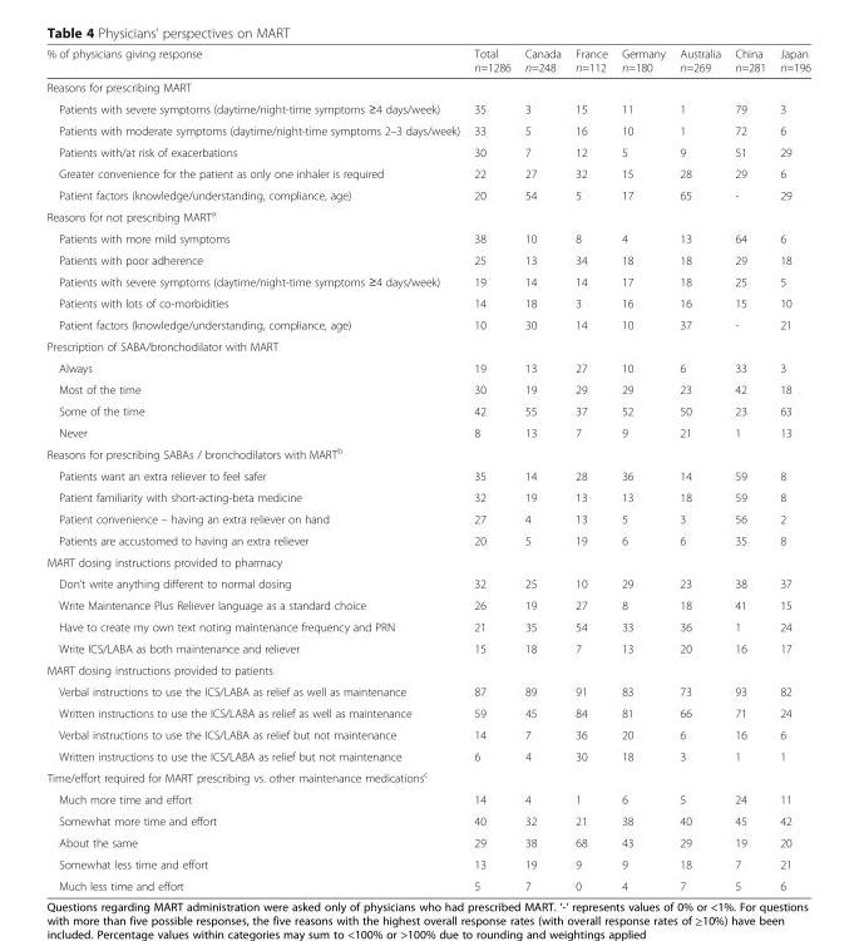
<table><thead><tr><td>% of physicians giving response</td><td>Total n=1286</td><td>Canada n=248</td><td>France n=112</td><td>Germany n=180</td><td>Australia n=269</td><td>China n=281</td><td>Japan n=196</td></tr></thead><tbody><tr><td colspan="8">Reasons for prescribing MART</td></tr><tr><td>Patients with severe symptoms (daytime/night-time symptoms ≥4 days/week)</td><td>35</td><td>3</td><td>15</td><td>11</td><td>1</td><td>79</td><td>3</td></tr><tr><td>Patients with moderate symptoms (daytime/night-time symptoms 2–3 days/week)</td><td>33</td><td>5</td><td>16</td><td>10</td><td>1</td><td>72</td><td>6</td></tr><tr><td>Patients with/at risk of exacerbations</td><td>30</td><td>7</td><td>12</td><td>5</td><td>9</td><td>51</td><td>29</td></tr><tr><td>Greater convenience for the patient as only one inhaler is required</td><td>22</td><td>27</td><td>32</td><td>15</td><td>28</td><td>29</td><td>6</td></tr><tr><td>Patient factors (knowledge/understanding, compliance, age)</td><td>20</td><td>54</td><td>5</td><td>17</td><td>65</td><td>-</td><td>29</td></tr><tr><td colspan="8">Reasons for not prescribing MART<sup>a</sup></td></tr><tr><td>Patients with more mild symptoms</td><td>38</td><td>10</td><td>8</td><td>4</td><td>13</td><td>64</td><td>6</td></tr><tr><td>Patients with poor adherence</td><td>25</td><td>13</td><td>34</td><td>18</td><td>18</td><td>29</td><td>18</td></tr><tr><td>Patients with severe symptoms (daytime/night-time symptoms ≥4 days/week)</td><td>19</td><td>14</td><td>14</td><td>17</td><td>18</td><td>25</td><td>5</td></tr><tr><td>Patients with lots of co-morbidities</td><td>14</td><td>18</td><td>3</td><td>16</td><td>16</td><td>15</td><td>10</td></tr><tr><td>Patient factors (knowledge/understanding, compliance, age)</td><td>10</td><td>30</td><td>14</td><td>10</td><td>37</td><td>-</td><td>21</td></tr><tr><td colspan="8">Prescription of SABA/bronchodilator with MART</td></tr><tr><td>Always</td><td>19</td><td>13</td><td>27</td><td>10</td><td>6</td><td>33</td><td>3</td></tr><tr><td>Most of the time</td><td>30</td><td>19</td><td>29</td><td>29</td><td>23</td><td>42</td><td>18</td></tr><tr><td>Some of the time</td><td>42</td><td>55</td><td>37</td><td>52</td><td>50</td><td>23</td><td>63</td></tr><tr><td>Never</td><td>8</td><td>13</td><td>7</td><td>9</td><td>21</td><td>1</td><td>13</td></tr><tr><td colspan="8">Reasons for prescribing SABAs / bronchodilators with MART<sup>b</sup></td></tr><tr><td>Patients want an extra reliever to feel safer</td><td>35</td><td>14</td><td>28</td><td>36</td><td>14</td><td>59</td><td>8</td></tr><tr><td>Patient familiarity with short-acting-beta medicine</td><td>32</td><td>19</td><td>13</td><td>13</td><td>18</td><td>59</td><td>8</td></tr><tr><td>Patient convenience – having an extra reliever on hand</td><td>27</td><td>4</td><td>13</td><td>5</td><td>3</td><td>56</td><td>2</td></tr><tr><td>Patients are accustomed to having an extra reliever</td><td>20</td><td>5</td><td>19</td><td>6</td><td>6</td><td>35</td><td>8</td></tr><tr><td colspan="8">MART dosing instructions provided to pharmacy</td></tr><tr><td>Don’t write anything different to normal dosing</td><td>32</td><td>25</td><td>10</td><td>29</td><td>23</td><td>38</td><td>37</td></tr><tr><td>Write Maintenance Plus Reliever language as a standard choice</td><td>26</td><td>19</td><td>27</td><td>8</td><td>18</td><td>41</td><td>15</td></tr><tr><td>Have to create my own text noting maintenance frequency and PRN</td><td>21</td><td>35</td><td>54</td><td>33</td><td>36</td><td>1</td><td>24</td></tr><tr><td>Write ICS/LABA as both maintenance and reliever</td><td>15</td><td>18</td><td>7</td><td>13</td><td>20</td><td>16</td><td>17</td></tr><tr><td colspan="8">MART dosing instructions provided to patients</td></tr><tr><td>Verbal instructions to use the ICS/LABA as relief as well as maintenance</td><td>87</td><td>89</td><td>91</td><td>83</td><td>73</td><td>93</td><td>82</td></tr><tr><td>Written instructions to use the ICS/LABA as relief as well as maintenance</td><td>59</td><td>45</td><td>84</td><td>81</td><td>66</td><td>71</td><td>24</td></tr><tr><td>Verbal instructions to use the ICS/LABA as relief but not maintenance</td><td>14</td><td>7</td><td>36</td><td>20</td><td>6</td><td>16</td><td>6</td></tr><tr><td>Written instructions to use the ICS/LABA as relief but not maintenance</td><td>6</td><td>4</td><td>30</td><td>18</td><td>3</td><td>1</td><td>1</td></tr><tr><td colspan="8">Time/effort required for MART prescribing vs. other maintenance medications<sup>c</sup></td></tr><tr><td>Much more time and effort</td><td>14</td><td>4</td><td>1</td><td>6</td><td>5</td><td>24</td><td>11</td></tr><tr><td>Somewhat more time and effort</td><td>40</td><td>32</td><td>21</td><td>38</td><td>40</td><td>45</td><td>42</td></tr><tr><td>About the same</td><td>29</td><td>38</td><td>68</td><td>43</td><td>29</td><td>19</td><td>20</td></tr><tr><td>Somewhat less time and effort</td><td>13</td><td>19</td><td>9</td><td>9</td><td>18</td><td>7</td><td>21</td></tr><tr><td>Much less time and effort</td><td>5</td><td>7</td><td>0</td><td>4</td><td>7</td><td>5</td><td>6</td></tr></tbody></table>